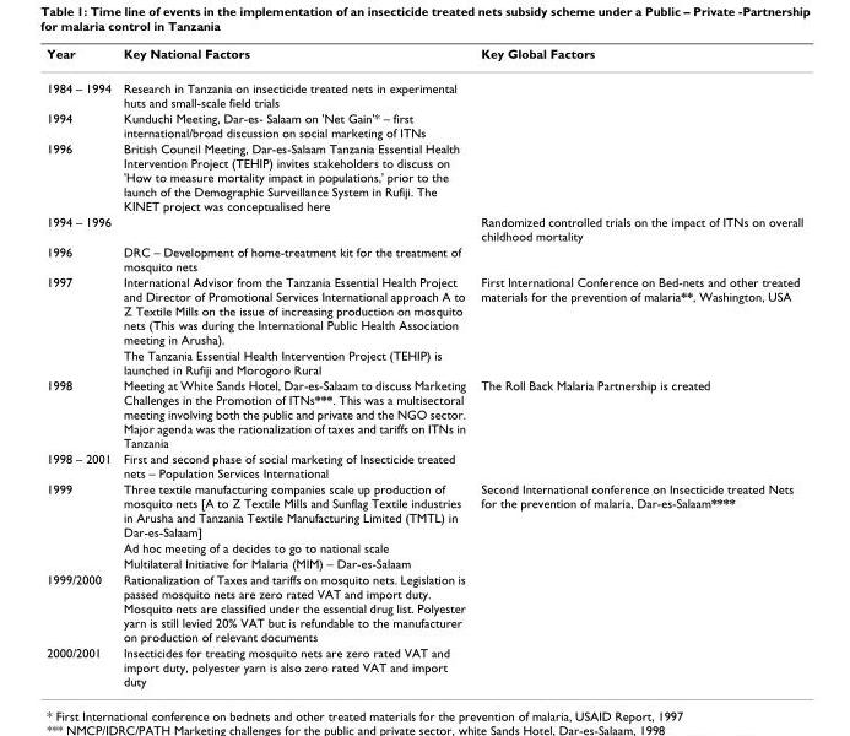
<table><thead><tr><td>Year</td><td>Key National Factors</td><td>Key Global Factors</td></tr></thead><tbody><tr><td>1984 – 1994</td><td>Research in Tanzania on insecticide treated nets in experimental huts and small-scale field trials</td><td></td></tr><tr><td>1994</td><td>Kunduchi Meeting, Dar-es- Salaam on &#x27;Net Gain&#x27;* – first international/broad discussion on social marketing of ITNs</td><td></td></tr><tr><td>1996</td><td>British Council Meeting, Dar-es-Salaam Tanzania Essential Health Intervention Project (TEHIP) invites stakeholders to discuss on &#x27;How to measure mortality impact in populations,&#x27; prior to the launch of the Demographic Surveillance System in Rufiji. The KINET project was conceptualised here</td><td></td></tr><tr><td>1994 – 1996</td><td></td><td>Randomized controlled trials on the impact of ITNs on overall childhood mortality</td></tr><tr><td>1996</td><td>DRC – Development of home-treatment kit for the treatment of mosquito nets</td><td></td></tr><tr><td rowspan="2">1997</td><td>International Advisor from the Tanzania Essential Health Project and Director of Promotional Services International approach A to Z Textile Mills on the issue of increasing production on mosquito nets (This was during the International Public Health Association meeting in Arusha).</td><td>First International Conference on Bed-nets and other treated materials for the prevention of malaria**, Washington, USA</td></tr><tr><td>The Tanzania Essential Health Intervention Project (TEHIP) is launched in Rufiji and Morogoro Rural</td><td></td></tr><tr><td>1998</td><td>Meeting at White Sands Hotel, Dar-es-Salaam to discuss Marketing Challenges in the Promotion of ITNs***. This was a multisectoral meeting involving both the public and private and the NGO sector. Major agenda was the rationalization of taxes and tariffs on ITNs in Tanzania</td><td>The Roll Back Malaria Partnership is created</td></tr><tr><td>1998 – 2001</td><td>First and second phase of social marketing of Insecticide treated nets – Population Services International</td><td></td></tr><tr><td rowspan="3">1999</td><td>Three textile manufacturing companies scale up production of mosquito nets [A to Z Textile Mills and Sunflag Textile industries in Arusha and Tanzania Textile Manufacturing Limited (TMTL) in Dar-es-Salaam]</td><td>Second International conference on Insecticide treated Nets for the prevention of malaria, Dar-es-Salaam****</td></tr><tr><td>Ad hoc meeting of a decides to go to national scale</td><td></td></tr><tr><td>Multilateral Initiative for Malaria (MIM) – Dar-es-Salaam</td><td></td></tr><tr><td>1999/2000</td><td>Rationalization of Taxes and tariffs on mosquito nets. Legislation is passed mosquito nets are zero rated VAT and import duty. Mosquito nets are classified under the essential drug list. Polyester yarn is still levied 20% VAT but is refundable to the manufacturer on production of relevant documents</td><td></td></tr><tr><td>2000/2001</td><td>Insecticides for treating mosquito nets are zero rated VAT and import duty, polyester yarn is also zero rated VAT and import duty</td><td></td></tr></tbody></table>